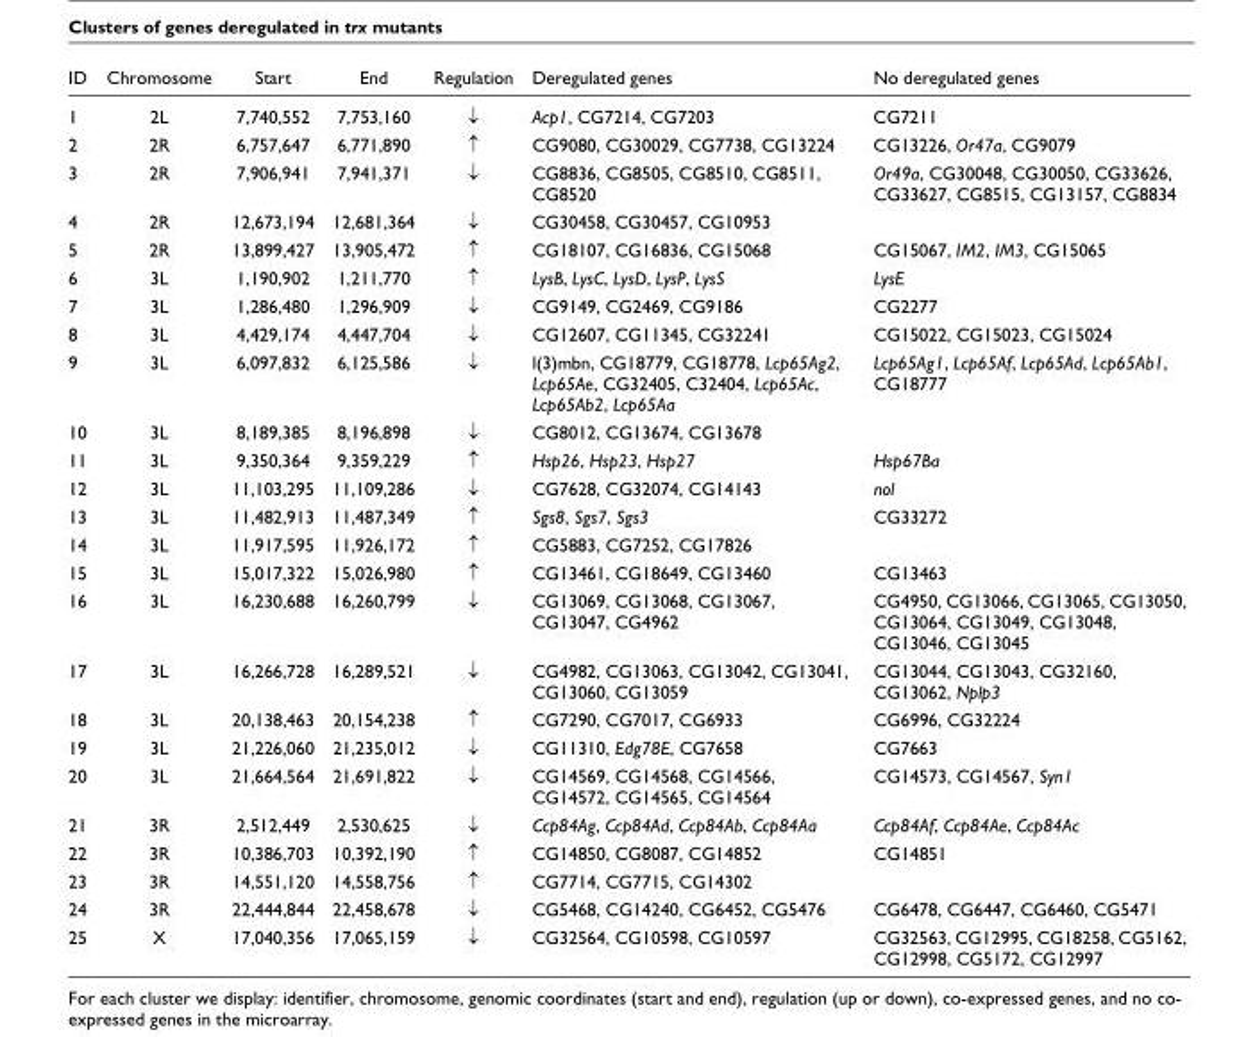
<table><thead><tr><td>ID</td><td>Chromosome</td><td>Start</td><td>End</td><td>Regulation</td><td>Deregulated genes</td><td>No deregulated genes</td></tr></thead><tbody><tr><td>1</td><td>2L</td><td>7,740,552</td><td>7,753,160</td><td>↓</td><td>Acp1, CG7214, CG7203</td><td>CG7211</td></tr><tr><td>2</td><td>2R</td><td>6,757,647</td><td>6,771,890</td><td>↑</td><td>CG9080, CG30029, CG7738, CG13224</td><td>CG13226, Or47a, CG9079</td></tr><tr><td>3</td><td>2R</td><td>7,906,941</td><td>7,941,371</td><td>↓</td><td>CG8836, CG8505, CG8510, CG8511, CG8520</td><td>Or49a, CG30048, CG30050, CG33626, CG33627, CG8515, CG13157, CG8834</td></tr><tr><td>4</td><td>2R</td><td>12,673,194</td><td>12,681,364</td><td>↓</td><td>CG30458, CG30457, CG10953</td><td></td></tr><tr><td>5</td><td>2R</td><td>13,899,427</td><td>13,905,472</td><td>↑</td><td>CG18107, CG16836, CG15068</td><td>CG15067, IM2, IM3, CG15065</td></tr><tr><td>6</td><td>3L</td><td>1,190,902</td><td>1,211,770</td><td>↑</td><td>LysB, LysC, LysD, LysP, LysS</td><td>LysE</td></tr><tr><td>7</td><td>3L</td><td>1,286,480</td><td>1,296,909</td><td>↓</td><td>CG9149, CG2469, CG9186</td><td>CG2277</td></tr><tr><td>8</td><td>3L</td><td>4,429,174</td><td>4,447,704</td><td>↓</td><td>CG12607, CG11345, CG32241</td><td>CG15022, CG15023, CG15024</td></tr><tr><td>9</td><td>3L</td><td>6,097,832</td><td>6,125,586</td><td>↓</td><td>l(3)mbn, CG18779, CG18778, Lcp65Ag2, Lcp65Ae, CG32405, C32404, Lcp65Ac, Lcp65Ab2, Lcp65Aa</td><td>Lcp65Ag1, Lcp65Af, Lcp65Ad, Lcp65Ab1, CG18777</td></tr><tr><td>10</td><td>3L</td><td>8,189,385</td><td>8,196,898</td><td>↓</td><td>CG8012, CG13674, CG13678</td><td></td></tr><tr><td>11</td><td>3L</td><td>9,350,364</td><td>9,359,229</td><td>↑</td><td>Hsp26, Hsp23, Hsp27</td><td>Hsp67Ba</td></tr><tr><td>12</td><td>3L</td><td>11,103,295</td><td>11,109,286</td><td>↓</td><td>CG7628, CG32074, CG14143</td><td>nol</td></tr><tr><td>13</td><td>3L</td><td>11,482,913</td><td>11,487,349</td><td>↑</td><td>Sgs8, Sgs7, Sgs3</td><td>CG33272</td></tr><tr><td>14</td><td>3L</td><td>11,917,595</td><td>11,926,172</td><td>↑</td><td>CG5883, CG7252, CG17826</td><td></td></tr><tr><td>15</td><td>3L</td><td>15,017,322</td><td>15,026,980</td><td>↑</td><td>CG13461, CG18649, CG13460</td><td>CG13463</td></tr><tr><td>16</td><td>3L</td><td>16,230,688</td><td>16,260,799</td><td>↓</td><td>CG13069, CG13068, CG13067, CG13047, CG4962</td><td>CG4950, CG13066, CG13065, CG13050, CG13064, CG13049, CG13048, CG13046, CG13045</td></tr><tr><td>17</td><td>3L</td><td>16,266,728</td><td>16,289,521</td><td>↓</td><td>CG4982, CG13063, CG13042, CG13041, CG13060, CG13059</td><td>CG13044, CG13043, CG32160, CG13062, Nplp3</td></tr><tr><td>18</td><td>3L</td><td>20,138,463</td><td>20,154,238</td><td>↑</td><td>CG7290, CG7017, CG6933</td><td>CG6996, CG32224</td></tr><tr><td>19</td><td>3L</td><td>21,226,060</td><td>21,235,012</td><td>↓</td><td>CG11310, Edg78E, CG7658</td><td>CG7663</td></tr><tr><td>20</td><td>3L</td><td>21,664,564</td><td>21,691,822</td><td>↓</td><td>CG14569, CG14568, CG14566, CG14572, CG14565, CG14564</td><td>CG14573, CG14567, Syn1</td></tr><tr><td>21</td><td>3R</td><td>2,512,449</td><td>2,530,625</td><td>↓</td><td>Ccp84Ag, Ccp84Ad, Ccp84Ab, Ccp84Aa</td><td>Ccp84Af, Ccp84Ae, Ccp84Ac</td></tr><tr><td>22</td><td>3R</td><td>10,386,703</td><td>10,392,190</td><td>↑</td><td>CG14850, CG8087, CG14852</td><td>CG14851</td></tr><tr><td>23</td><td>3R</td><td>14,551,120</td><td>14,558,756</td><td>↑</td><td>CG7714, CG7715, CG14302</td><td></td></tr><tr><td>24</td><td>3R</td><td>22,444,844</td><td>22,458,678</td><td>↓</td><td>CG5468, CG14240, CG6452, CG5476</td><td>CG6478, CG6447, CG6460, CG5471</td></tr><tr><td>25</td><td>X</td><td>17,040,356</td><td>17,065,159</td><td>↓</td><td>CG32564, CG10598, CG10597</td><td>CG32563, CG12995, CG18258, CG5162, CG12998, CG5172, CG12997</td></tr></tbody></table>